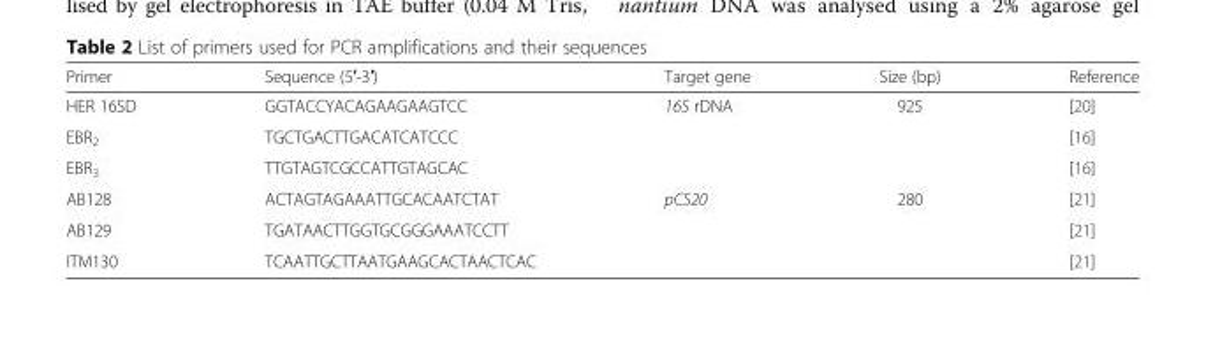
<table><thead><tr><td>Primer</td><td>Sequence (5′-3′)</td><td>Target gene</td><td>Size (bp)</td><td>Reference</td></tr></thead><tbody><tr><td>HER 16SD</td><td>GGTACCYACAGAAGAAGTCC</td><td rowspan="3">16S rDNA</td><td rowspan="3">925</td><td>[20]</td></tr><tr><td>EBR<sub>2</sub></td><td>TGCTGACTTGACATCATCCC</td><td>[16]</td></tr><tr><td>EBR<sub>3</sub></td><td>TTGTAGTCGCCATTGTAGCAC</td><td>[16]</td></tr><tr><td>AB128</td><td>ACTAGTAGAAATTGCACAATCTAT</td><td rowspan="3">pCS20</td><td rowspan="3">280</td><td>[21]</td></tr><tr><td>AB129</td><td>TGATAACTTGGTGCGGGAAATCCTT</td><td>[21]</td></tr><tr><td>ITM130</td><td>TCAATTGCTTAATGAAGCACTAACTCAC</td><td>[21]</td></tr></tbody></table>